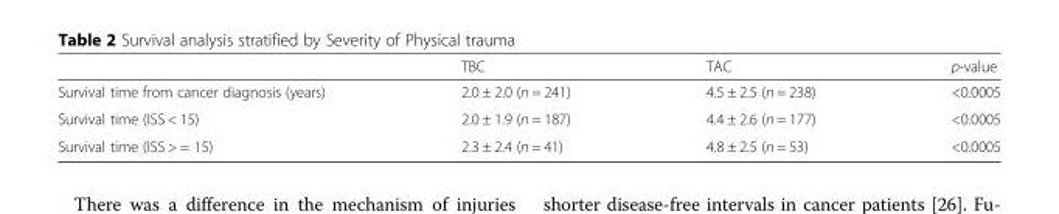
<table><thead><tr><td></td><td>TBC</td><td>TAC</td><td>p-value</td></tr></thead><tbody><tr><td>Survival time from cancer diagnosis (years)</td><td>2.0 ± 2.0 (n = 241)</td><td>4.5 ± 2.5 (n = 238)</td><td>&lt;0.0005</td></tr><tr><td>Survival time (ISS &lt; 15)</td><td>2.0 ± 1.9 (n = 187)</td><td>4.4 ± 2.6 (n = 177)</td><td>&lt;0.0005</td></tr><tr><td>Survival time (ISS &gt; = 15)</td><td>2.3 ± 2.4 (n = 41)</td><td>4.8 ± 2.5 (n = 53)</td><td>&lt;0.0005</td></tr></tbody></table>